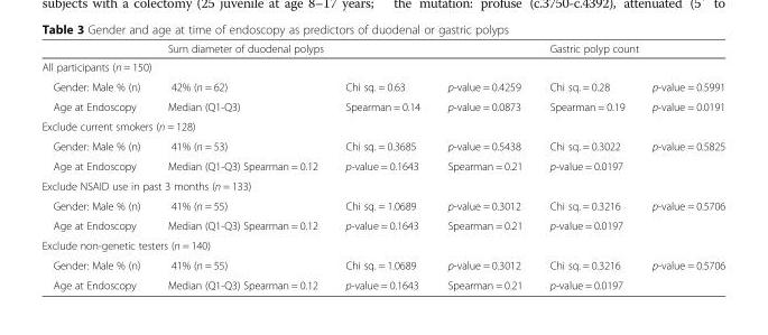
<table><thead><tr><td></td><td colspan="3">Sum diameter of duodenal polyps</td><td colspan="2">Gastric polyp count</td></tr><tr><td colspan="6">All participants (n = 150)</td></tr><tr><td>Gender: Male % (n)</td><td>42% (n = 62)</td><td>Chi sq. = 0.63</td><td>p-value = 0.4259</td><td>Chi sq. = 0.28</td><td>p-value = 0.5991</td></tr></thead><tbody><tr><td>Age at Endoscopy</td><td>Median (Q1-Q3)</td><td>Spearman = 0.14</td><td>p-value = 0.0873</td><td>Spearman = 0.19</td><td>p-value = 0.0191</td></tr><tr><td colspan="6">Exclude current smokers (n = 128)</td></tr><tr><td>Gender: Male % (n)</td><td>41% (n = 53)</td><td>Chi sq. = 0.3685</td><td>p-value = 0.5438</td><td>Chi sq. = 0.3022</td><td>p-value = 0.5825</td></tr><tr><td>Age at Endoscopy</td><td>Median (Q1-Q3) Spearman = 0.12</td><td>p-value = 0.1643</td><td>Spearman = 0.21</td><td>p-value = 0.0197</td><td></td></tr><tr><td colspan="6">Exclude NSAID use in past 3 months (n = 133)</td></tr><tr><td>Gender: Male % (n)</td><td>41% (n = 55)</td><td>Chi sq. = 1.0689</td><td>p-value = 0.3012</td><td>Chi sq. = 0.3216</td><td>p-value = 0.5706</td></tr><tr><td>Age at Endoscopy</td><td>Median (Q1-Q3) Spearman = 0.12</td><td>p-value = 0.1643</td><td>Spearman = 0.21</td><td>p-value = 0.0197</td><td></td></tr><tr><td colspan="6">Exclude non-genetic testers (n = 140)</td></tr><tr><td>Gender: Male % (n)</td><td>41% (n = 55)</td><td>Chi sq. = 1.0689</td><td>p-value = 0.3012</td><td>Chi sq. = 0.3216</td><td>p-value = 0.5706</td></tr><tr><td>Age at Endoscopy</td><td>Median (Q1-Q3) Spearman = 0.12</td><td>p-value = 0.1643</td><td>Spearman = 0.21</td><td>p-value = 0.0197</td><td></td></tr></tbody></table>